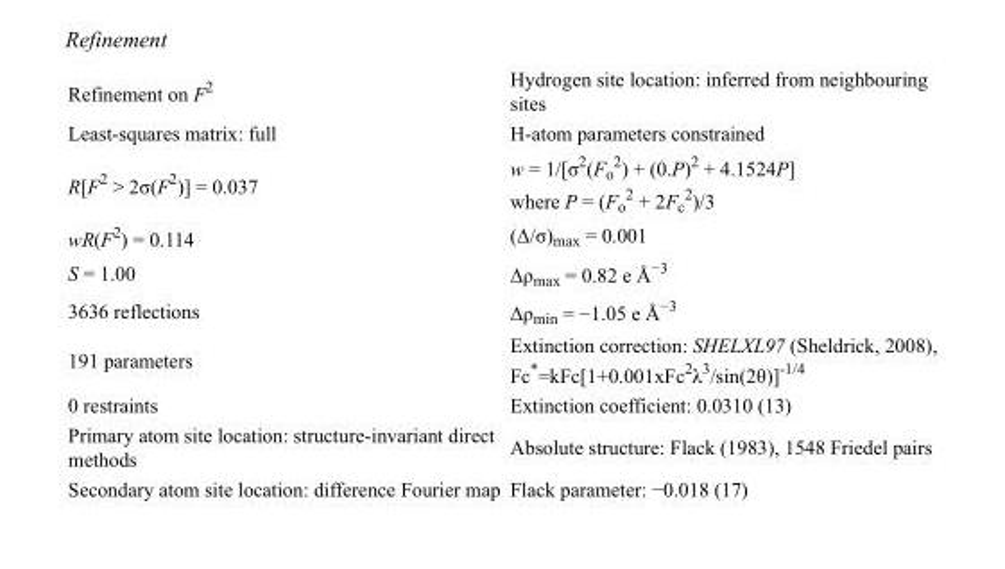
<table><tbody><tr><td>Refinement on F<sup>2</sup></td><td>Hydrogen site location: inferred from neighbouring sites</td></tr><tr><td>Least-squares matrix: full</td><td>H-atom parameters constrained</td></tr><tr><td>R[F<sup>2</sup> &gt; 2σ(F<sup>2</sup>)] = 0.037</td><td>w = 1/[σ<sup>2</sup>(F<sub>o</sub> <sup>2</sup>) + (0.P)<sup>2</sup> + 4.1524P] where P = (F<sub>o</sub> <sup>2</sup> + 2F<sub>c</sub> <sup>2</sup>)/3</td></tr><tr><td>wR(F<sup>2</sup>) = 0.114</td><td>(Δ/σ)<sub>max</sub> = 0.001</td></tr><tr><td>S = 1.00</td><td>Δρ<sub>max</sub> = 0.82 e Å<sup>−3</sup></td></tr><tr><td>3636 reflections</td><td>Δρ<sub>min</sub> = −1.05 e Å<sup>−3</sup></td></tr><tr><td>191 parameters</td><td>Extinction correction: SHELXL97 (Sheldrick, 2008), Fc*=kFc[1+0.001xFc<sup>2</sup>λ<sup>3</sup>/sin(2θ)]<sup>-1/4</sup></td></tr><tr><td>0 restraints</td><td>Extinction coefficient: 0.0310 (13)</td></tr><tr><td>Primary atom site location: structure-invariant direct methods</td><td>Absolute structure: Flack (1983), 1548 Friedel pairs</td></tr><tr><td>Secondary atom site location: difference Fourier map</td><td>Flack parameter: −0.018 (17)</td></tr></tbody></table>